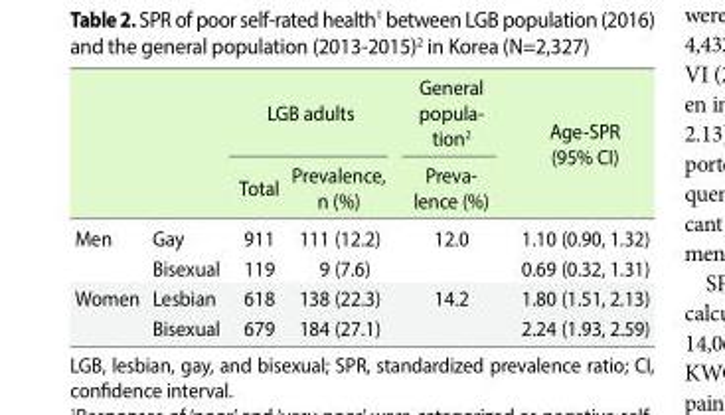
<table><thead><tr><td rowspan="2"></td><td rowspan="2"></td><td colspan="2">LGB adults</td><td rowspan="2">General popula- tion2 Preva- lence (%)</td><td rowspan="2">Age-SPR (95% CI)</td></tr><tr><td>Total</td><td>Prevalence, n (%)</td></tr></thead><tbody><tr><td rowspan="2">Men</td><td>Gay</td><td>911</td><td>111 (12.2)</td><td>12.0</td><td>1.10 (0.90, 1.32)</td></tr><tr><td>Bisexual</td><td>119</td><td>9 (7.6)</td><td></td><td>0.69 (0.32, 1.31)</td></tr><tr><td rowspan="2">Women</td><td>Lesbian</td><td>618</td><td>138 (22.3)</td><td>14.2</td><td>1.80 (1.51, 2.13)</td></tr><tr><td>Bisexual</td><td>679</td><td>184 (27.1)</td><td></td><td>2.24 (1.93, 2.59)</td></tr></tbody></table>